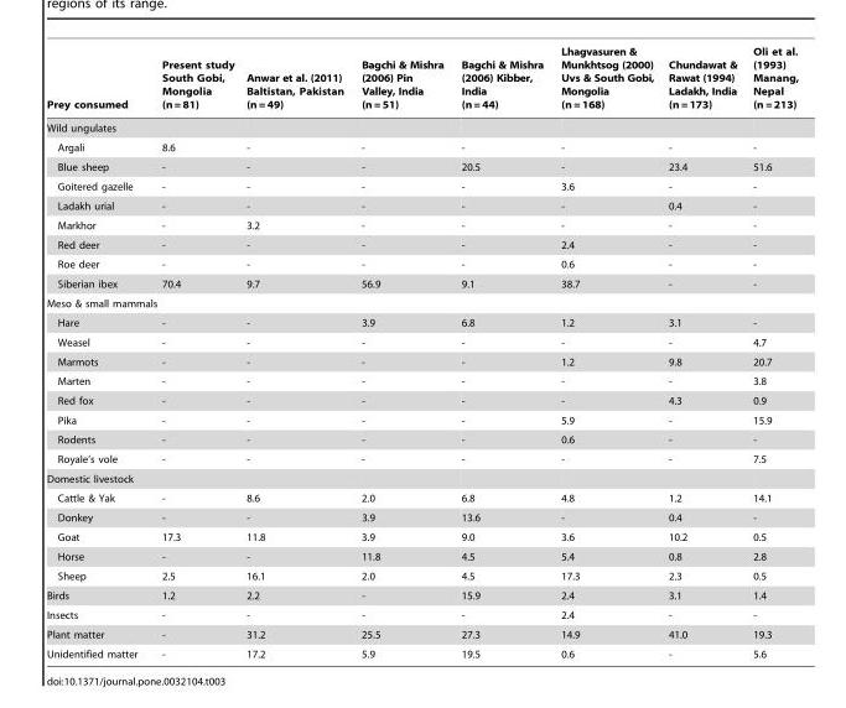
<table><thead><tr><td>Prey consumed</td><td>Present study South Gobi, Mongolia (n = 81)</td><td>Anwar et al. (2011) Baltistan, Pakistan (n = 49)</td><td>Bagchi &amp; Mishra (2006) Pin Valley, India (n = 51)</td><td>Bagchi &amp; Mishra (2006) Kibber, India (n = 44)</td><td>Lhagvasuren &amp; Munkhtsog (2000) Uvs &amp; South Gobi, Mongolia (n = 168)</td><td>Chundawat &amp; Rawat (1994) Ladakh, India (n = 173)</td><td>Oli et al. (1993) Manang, Nepal (n = 213)</td></tr></thead><tbody><tr><td colspan="8">Wild ungulates</td></tr><tr><td>Argali</td><td>8.6</td><td>-</td><td>-</td><td>-</td><td>-</td><td>-</td><td>-</td></tr><tr><td>Blue sheep</td><td>-</td><td>-</td><td>-</td><td>20.5</td><td>-</td><td>23.4</td><td>51.6</td></tr><tr><td>Goitered gazelle</td><td>-</td><td>-</td><td>-</td><td>-</td><td>3.6</td><td>-</td><td>-</td></tr><tr><td>Ladakh urial</td><td>-</td><td>-</td><td>-</td><td>-</td><td>-</td><td>0.4</td><td>-</td></tr><tr><td>Markhor</td><td>-</td><td>3.2</td><td>-</td><td>-</td><td>-</td><td>-</td><td>-</td></tr><tr><td>Red deer</td><td>-</td><td>-</td><td>-</td><td>-</td><td>2.4</td><td>-</td><td>-</td></tr><tr><td>Roe deer</td><td>-</td><td>-</td><td>-</td><td>-</td><td>0.6</td><td>-</td><td>-</td></tr><tr><td>Siberian ibex</td><td>70.4</td><td>9.7</td><td>56.9</td><td>9.1</td><td>38.7</td><td>-</td><td>-</td></tr><tr><td colspan="8">Meso &amp; small mammals</td></tr><tr><td>Hare</td><td>-</td><td>-</td><td>3.9</td><td>6.8</td><td>1.2</td><td>3.1</td><td>-</td></tr><tr><td>Weasel</td><td>-</td><td>-</td><td>-</td><td>-</td><td>-</td><td>-</td><td>4.7</td></tr><tr><td>Marmots</td><td>-</td><td>-</td><td>-</td><td>-</td><td>1.2</td><td>9.8</td><td>20.7</td></tr><tr><td>Marten</td><td>-</td><td>-</td><td>-</td><td>-</td><td>-</td><td>-</td><td>3.8</td></tr><tr><td>Red fox</td><td>-</td><td>-</td><td>-</td><td>-</td><td>-</td><td>4.3</td><td>0.9</td></tr><tr><td>Pika</td><td>-</td><td>-</td><td>-</td><td>-</td><td>5.9</td><td>-</td><td>15.9</td></tr><tr><td>Rodents</td><td>-</td><td>-</td><td>-</td><td>-</td><td>0.6</td><td>-</td><td>-</td></tr><tr><td>Royale’s vole</td><td>-</td><td>-</td><td>-</td><td>-</td><td>-</td><td>-</td><td>7.5</td></tr><tr><td colspan="8">Domestic livestock</td></tr><tr><td>Cattle &amp; Yak</td><td>-</td><td>8.6</td><td>2.0</td><td>6.8</td><td>4.8</td><td>1.2</td><td>14.1</td></tr><tr><td>Donkey</td><td>-</td><td>-</td><td>3.9</td><td>13.6</td><td>-</td><td>0.4</td><td>-</td></tr><tr><td>Goat</td><td>17.3</td><td>11.8</td><td>3.9</td><td>9.0</td><td>3.6</td><td>10.2</td><td>0.5</td></tr><tr><td>Horse</td><td>-</td><td>-</td><td>11.8</td><td>4.5</td><td>5.4</td><td>0.8</td><td>2.8</td></tr><tr><td>Sheep</td><td>2.5</td><td>16.1</td><td>2.0</td><td>4.5</td><td>17.3</td><td>2.3</td><td>0.5</td></tr><tr><td>Birds</td><td>1.2</td><td>2.2</td><td>-</td><td>15.9</td><td>2.4</td><td>3.1</td><td>1.4</td></tr><tr><td>Insects</td><td>-</td><td>-</td><td>-</td><td>-</td><td>2.4</td><td>-</td><td>-</td></tr><tr><td>Plant matter</td><td>-</td><td>31.2</td><td>25.5</td><td>27.3</td><td>14.9</td><td>41.0</td><td>19.3</td></tr><tr><td>Unidentified matter</td><td>-</td><td>17.2</td><td>5.9</td><td>19.5</td><td>0.6</td><td>-</td><td>5.6</td></tr></tbody></table>